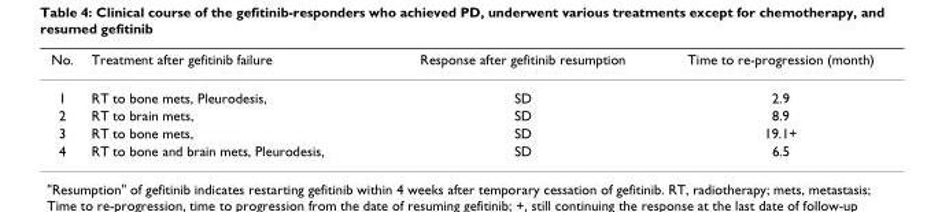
<table><thead><tr><td>No.</td><td>Treatment after gefitinib failure</td><td>Response after gefitinib resumption</td><td>Time to re-progression (month)</td></tr></thead><tbody><tr><td>1</td><td>RT to bone mets, Pleurodesis,</td><td>SD</td><td>2.9</td></tr><tr><td>2</td><td>RT to brain mets,</td><td>SD</td><td>8.9</td></tr><tr><td>3</td><td>RT to bone mets,</td><td>SD</td><td>19.1+</td></tr><tr><td>4</td><td>RT to bone and brain mets, Pleurodesis,</td><td>SD</td><td>6.5</td></tr></tbody></table>